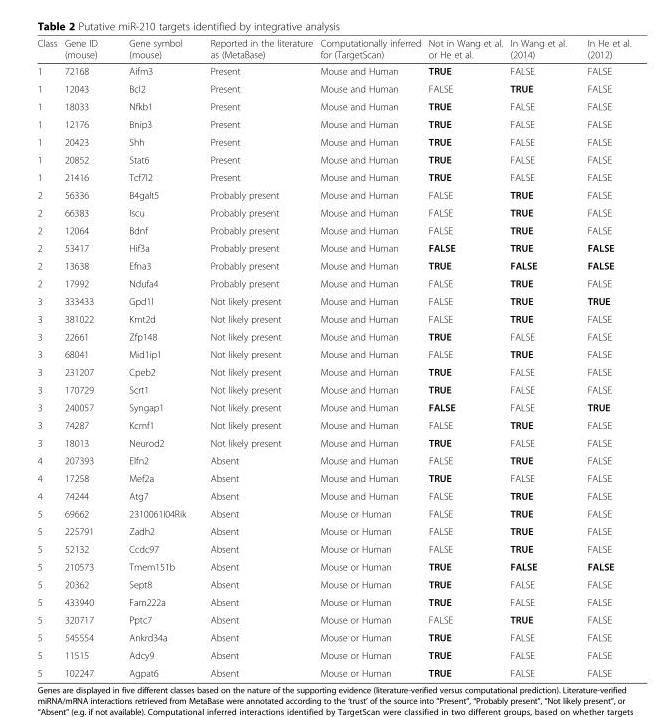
<table><thead><tr><td>Class</td><td>Gene ID (mouse)</td><td>Gene symbol (mouse)</td><td>Reported in the literature as (MetaBase)</td><td>Computationally inferred for (TargetScan)</td><td>Not in Wang et al. or He et al.</td><td>In Wang et al. (2014)</td><td>In He et al. (2012)</td></tr></thead><tbody><tr><td>1</td><td>72168</td><td>Aifm3</td><td>Present</td><td>Mouse and Human</td><td>TRUE</td><td>FALSE</td><td>FALSE</td></tr><tr><td>1</td><td>12043</td><td>Bcl2</td><td>Present</td><td>Mouse and Human</td><td>FALSE</td><td>TRUE</td><td>FALSE</td></tr><tr><td>1</td><td>18033</td><td>Nfkb1</td><td>Present</td><td>Mouse and Human</td><td>TRUE</td><td>FALSE</td><td>FALSE</td></tr><tr><td>1</td><td>12176</td><td>Bnip3</td><td>Present</td><td>Mouse and Human</td><td>TRUE</td><td>FALSE</td><td>FALSE</td></tr><tr><td>1</td><td>20423</td><td>Shh</td><td>Present</td><td>Mouse and Human</td><td>TRUE</td><td>FALSE</td><td>FALSE</td></tr><tr><td>1</td><td>20852</td><td>Stat6</td><td>Present</td><td>Mouse and Human</td><td>TRUE</td><td>FALSE</td><td>FALSE</td></tr><tr><td>1</td><td>21416</td><td>Tcf7l2</td><td>Present</td><td>Mouse and Human</td><td>TRUE</td><td>FALSE</td><td>FALSE</td></tr><tr><td>2</td><td>56336</td><td>B4galt5</td><td>Probably present</td><td>Mouse and Human</td><td>FALSE</td><td>TRUE</td><td>FALSE</td></tr><tr><td>2</td><td>66383</td><td>Iscu</td><td>Probably present</td><td>Mouse and Human</td><td>FALSE</td><td>TRUE</td><td>FALSE</td></tr><tr><td>2</td><td>12064</td><td>Bdnf</td><td>Probably present</td><td>Mouse and Human</td><td>FALSE</td><td>TRUE</td><td>FALSE</td></tr><tr><td>2</td><td>53417</td><td>Hif3a</td><td>Probably present</td><td>Mouse and Human</td><td>FALSE</td><td>TRUE</td><td>FALSE</td></tr><tr><td>2</td><td>13638</td><td>Efna3</td><td>Probably present</td><td>Mouse and Human</td><td>TRUE</td><td>FALSE</td><td>FALSE</td></tr><tr><td>2</td><td>17992</td><td>Ndufa4</td><td>Probably present</td><td>Mouse and Human</td><td>FALSE</td><td>TRUE</td><td>FALSE</td></tr><tr><td>3</td><td>333433</td><td>Gpd1l</td><td>Not likely present</td><td>Mouse and Human</td><td>FALSE</td><td>TRUE</td><td>TRUE</td></tr><tr><td>3</td><td>381022</td><td>Kmt2d</td><td>Not likely present</td><td>Mouse and Human</td><td>FALSE</td><td>TRUE</td><td>FALSE</td></tr><tr><td>3</td><td>22661</td><td>Zfp148</td><td>Not likely present</td><td>Mouse and Human</td><td>TRUE</td><td>FALSE</td><td>FALSE</td></tr><tr><td>3</td><td>68041</td><td>Mid1ip1</td><td>Not likely present</td><td>Mouse and Human</td><td>FALSE</td><td>TRUE</td><td>FALSE</td></tr><tr><td>3</td><td>231207</td><td>Cpeb2</td><td>Not likely present</td><td>Mouse and Human</td><td>TRUE</td><td>FALSE</td><td>FALSE</td></tr><tr><td>3</td><td>170729</td><td>Scrt1</td><td>Not likely present</td><td>Mouse and Human</td><td>TRUE</td><td>FALSE</td><td>FALSE</td></tr><tr><td>3</td><td>240057</td><td>Syngap1</td><td>Not likely present</td><td>Mouse and Human</td><td>FALSE</td><td>FALSE</td><td>TRUE</td></tr><tr><td>3</td><td>74287</td><td>Kcmf1</td><td>Not likely present</td><td>Mouse and Human</td><td>FALSE</td><td>TRUE</td><td>FALSE</td></tr><tr><td>3</td><td>18013</td><td>Neurod2</td><td>Not likely present</td><td>Mouse and Human</td><td>TRUE</td><td>FALSE</td><td>FALSE</td></tr><tr><td>4</td><td>207393</td><td>Elfn2</td><td>Absent</td><td>Mouse and Human</td><td>FALSE</td><td>TRUE</td><td>FALSE</td></tr><tr><td>4</td><td>17258</td><td>Mef2a</td><td>Absent</td><td>Mouse and Human</td><td>TRUE</td><td>FALSE</td><td>FALSE</td></tr><tr><td>4</td><td>74244</td><td>Atg7</td><td>Absent</td><td>Mouse and Human</td><td>FALSE</td><td>TRUE</td><td>FALSE</td></tr><tr><td>5</td><td>69662</td><td>2310061I04Rik</td><td>Absent</td><td>Mouse or Human</td><td>FALSE</td><td>TRUE</td><td>FALSE</td></tr><tr><td>5</td><td>225791</td><td>Zadh2</td><td>Absent</td><td>Mouse or Human</td><td>FALSE</td><td>TRUE</td><td>FALSE</td></tr><tr><td>5</td><td>52132</td><td>Ccdc97</td><td>Absent</td><td>Mouse or Human</td><td>FALSE</td><td>TRUE</td><td>FALSE</td></tr><tr><td>5</td><td>210573</td><td>Tmem151b</td><td>Absent</td><td>Mouse or Human</td><td>TRUE</td><td>FALSE</td><td>FALSE</td></tr><tr><td>5</td><td>20362</td><td>Sept8</td><td>Absent</td><td>Mouse or Human</td><td>TRUE</td><td>FALSE</td><td>FALSE</td></tr><tr><td>5</td><td>433940</td><td>Fam222a</td><td>Absent</td><td>Mouse or Human</td><td>TRUE</td><td>FALSE</td><td>FALSE</td></tr><tr><td>5</td><td>320717</td><td>Pptc7</td><td>Absent</td><td>Mouse or Human</td><td>FALSE</td><td>TRUE</td><td>FALSE</td></tr><tr><td>5</td><td>545554</td><td>Ankrd34a</td><td>Absent</td><td>Mouse or Human</td><td>TRUE</td><td>FALSE</td><td>FALSE</td></tr><tr><td>5</td><td>11515</td><td>Adcy9</td><td>Absent</td><td>Mouse or Human</td><td>TRUE</td><td>FALSE</td><td>FALSE</td></tr><tr><td>5</td><td>102247</td><td>Agpat6</td><td>Absent</td><td>Mouse or Human</td><td>TRUE</td><td>FALSE</td><td>FALSE</td></tr></tbody></table>